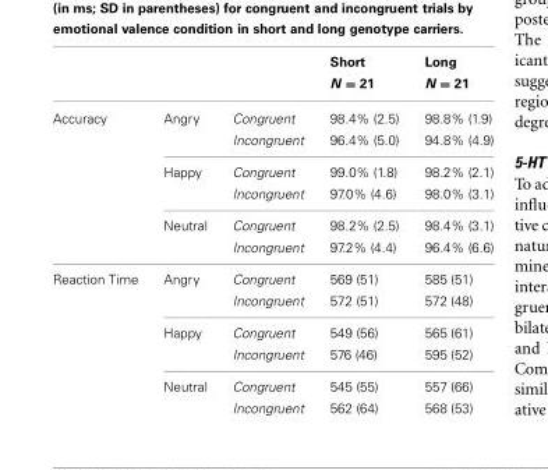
<table><thead><tr><td></td><td></td><td></td><td>Short N = 21</td><td>Long N = 21</td></tr></thead><tbody><tr><td rowspan="6">Accuracy</td><td>Angry</td><td>Congruent</td><td>98.4% (2.5)</td><td>98.8% (1.9)</td></tr><tr><td></td><td>Incongruent</td><td>96.4% (5.0)</td><td>94.8% (4.9)</td></tr><tr><td>Happy</td><td>Congruent</td><td>99.0% (1.8)</td><td>98.2% (2.1)</td></tr><tr><td></td><td>Incongruent</td><td>97.0% (4.6)</td><td>98.0% (3.1)</td></tr><tr><td>Neutral</td><td>Congruent</td><td>98.2% (2.5)</td><td>98.4% (3.1)</td></tr><tr><td></td><td>Incongruent</td><td>97.2% (4.4)</td><td>96.4% (6.6)</td></tr><tr><td rowspan="6">Reaction Time</td><td>Angry</td><td>Congruent</td><td>569 (51)</td><td>585 (51)</td></tr><tr><td></td><td>Incongruent</td><td>572 (51)</td><td>572 (48)</td></tr><tr><td>Happy</td><td>Congruent</td><td>549 (56)</td><td>565 (61)</td></tr><tr><td></td><td>Incongruent</td><td>576 (46)</td><td>595 (52)</td></tr><tr><td>Neutral</td><td>Congruent</td><td>545 (55)</td><td>557 (66)</td></tr><tr><td></td><td>Incongruent</td><td>562 (64)</td><td>568 (53)</td></tr></tbody></table>